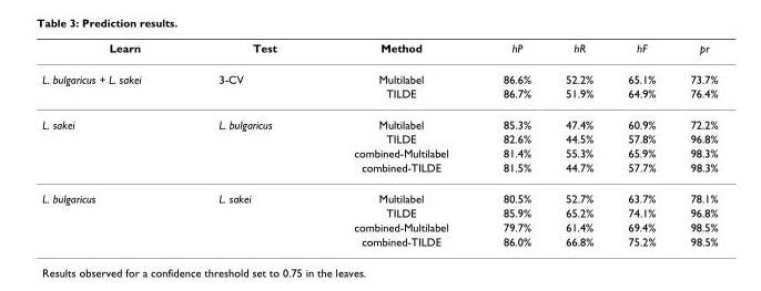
<table><thead><tr><td>Learn</td><td>Test</td><td>Method</td><td>hP</td><td>hR</td><td>hF</td><td>pr</td></tr></thead><tbody><tr><td rowspan="2">L. bulgaricus + L. sakei</td><td>3-CV</td><td>Multilabel</td><td>86.6%</td><td>52.2%</td><td>65.1%</td><td>73.7%</td></tr><tr><td></td><td>TILDE</td><td>86.7%</td><td>51.9%</td><td>64.9%</td><td>76.4%</td></tr><tr><td rowspan="4">L. sakei</td><td>L. bulgaricus</td><td>Multilabel</td><td>85.3%</td><td>47.4%</td><td>60.9%</td><td>72.2%</td></tr><tr><td></td><td>TILDE</td><td>82.6%</td><td>44.5%</td><td>57.8%</td><td>96.8%</td></tr><tr><td></td><td>combined-Multilabel</td><td>81.4%</td><td>55.3%</td><td>65.9%</td><td>98.3%</td></tr><tr><td></td><td>combined-TILDE</td><td>81.5%</td><td>44.7%</td><td>57.7%</td><td>98.3%</td></tr><tr><td rowspan="4">L. bulgaricus</td><td>L. sakei</td><td>Multilabel</td><td>80.5%</td><td>52.7%</td><td>63.7%</td><td>78.1%</td></tr><tr><td></td><td>TILDE</td><td>85.9%</td><td>65.2%</td><td>74.1%</td><td>96.8%</td></tr><tr><td></td><td>combined-Multilabel</td><td>79.7%</td><td>61.4%</td><td>69.4%</td><td>98.5%</td></tr><tr><td></td><td>combined-TILDE</td><td>86.0%</td><td>66.8%</td><td>75.2%</td><td>98.5%</td></tr></tbody></table>